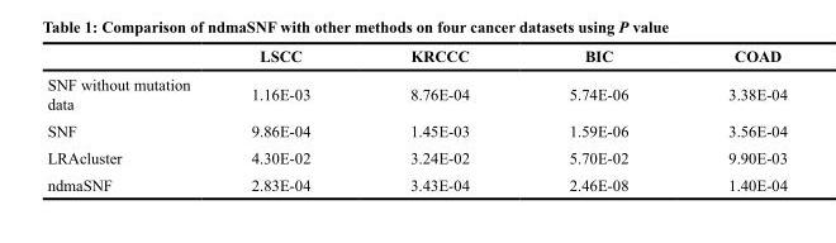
<table><thead><tr><td></td><td>LSCC</td><td>KRCCC</td><td>BIC</td><td>COAD</td></tr></thead><tbody><tr><td>SNF without mutation data</td><td>1.16E-03</td><td>8.76E-04</td><td>5.74E-06</td><td>3.38E-04</td></tr><tr><td>SNF</td><td>9.86E-04</td><td>1.45E-03</td><td>1.59E-06</td><td>3.56E-04</td></tr><tr><td>LRAcluster</td><td>4.30E-02</td><td>3.24E-02</td><td>5.70E-02</td><td>9.90E-03</td></tr><tr><td>ndmaSNF</td><td>2.83E-04</td><td>3.43E-04</td><td>2.46E-08</td><td>1.40E-04</td></tr></tbody></table>